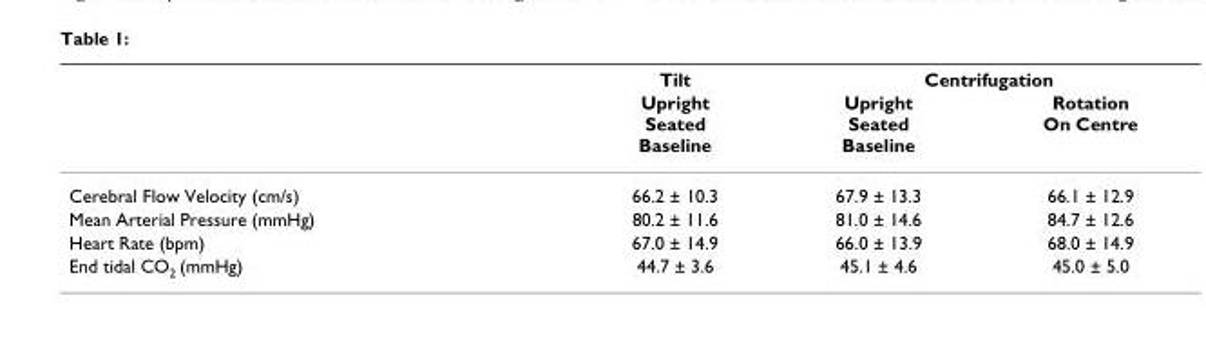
<table><thead><tr><td rowspan="2"></td><td rowspan="2">Tilt Upright Seated Baseline</td><td colspan="2">Centrifugation</td></tr><tr><td>Upright Seated Baseline</td><td>Rotation On Centre</td></tr></thead><tbody><tr><td>Cerebral Flow Velocity (cm/s)</td><td>66.2 ± 10.3</td><td>67.9 ± 13.3</td><td>66.1 ± 12.9</td></tr><tr><td>Mean Arterial Pressure (mmHg)</td><td>80.2 ± 11.6</td><td>81.0 ± 14.6</td><td>84.7 ± 12.6</td></tr><tr><td>Heart Rate (bpm)</td><td>67.0 ± 14.9</td><td>66.0 ± 13.9</td><td>68.0 ± 14.9</td></tr><tr><td>End tidal CO<sub>2</sub> (mmHg)</td><td>44.7 ± 3.6</td><td>45.1 ± 4.6</td><td>45.0 ± 5.0</td></tr></tbody></table>